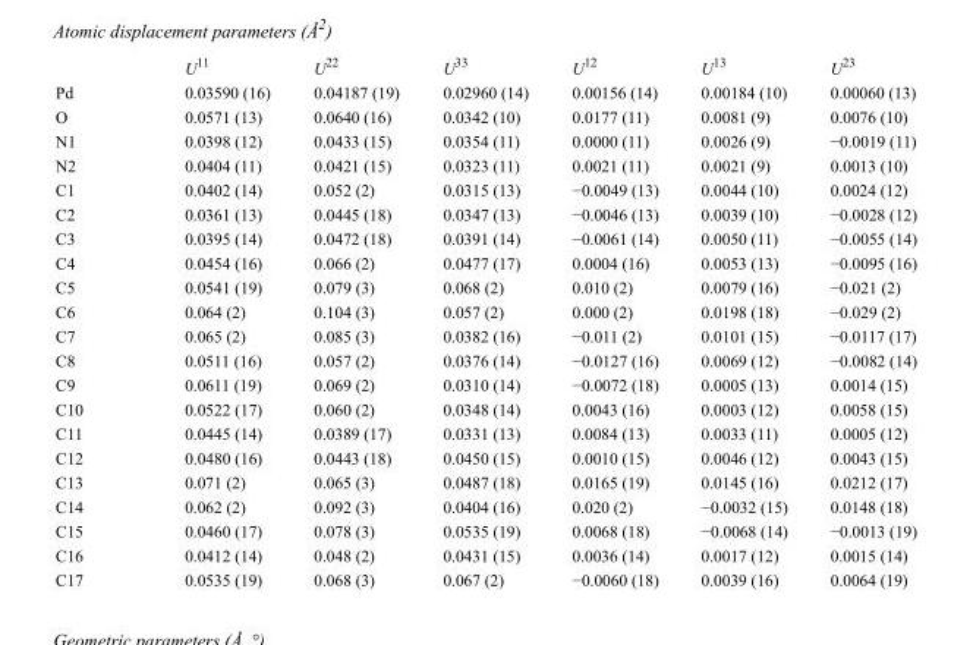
<table><thead><tr><td></td><td>U<sup>11</sup></td><td>U<sup>22</sup></td><td>U<sup>33</sup></td><td>U<sup>12</sup></td><td>U<sup>13</sup></td><td>U<sup>23</sup></td></tr></thead><tbody><tr><td>Pd</td><td>0.03590 (16)</td><td>0.04187 (19)</td><td>0.02960 (14)</td><td>0.00156 (14)</td><td>0.00184 (10)</td><td>0.00060 (13)</td></tr><tr><td>O</td><td>0.0571 (13)</td><td>0.0640 (16)</td><td>0.0342 (10)</td><td>0.0177 (11)</td><td>0.0081 (9)</td><td>0.0076 (10)</td></tr><tr><td>N1</td><td>0.0398 (12)</td><td>0.0433 (15)</td><td>0.0354 (11)</td><td>0.0000 (11)</td><td>0.0026 (9)</td><td>−0.0019 (11)</td></tr><tr><td>N2</td><td>0.0404 (11)</td><td>0.0421 (15)</td><td>0.0323 (11)</td><td>0.0021 (11)</td><td>0.0021 (9)</td><td>0.0013 (10)</td></tr><tr><td>C1</td><td>0.0402 (14)</td><td>0.052 (2)</td><td>0.0315 (13)</td><td>−0.0049 (13)</td><td>0.0044 (10)</td><td>0.0024 (12)</td></tr><tr><td>C2</td><td>0.0361 (13)</td><td>0.0445 (18)</td><td>0.0347 (13)</td><td>−0.0046 (13)</td><td>0.0039 (10)</td><td>−0.0028 (12)</td></tr><tr><td>C3</td><td>0.0395 (14)</td><td>0.0472 (18)</td><td>0.0391 (14)</td><td>−0.0061 (14)</td><td>0.0050 (11)</td><td>−0.0055 (14)</td></tr><tr><td>C4</td><td>0.0454 (16)</td><td>0.066 (2)</td><td>0.0477 (17)</td><td>0.0004 (16)</td><td>0.0053 (13)</td><td>−0.0095 (16)</td></tr><tr><td>C5</td><td>0.0541 (19)</td><td>0.079 (3)</td><td>0.068 (2)</td><td>0.010 (2)</td><td>0.0079 (16)</td><td>−0.021 (2)</td></tr><tr><td>C6</td><td>0.064 (2)</td><td>0.104 (3)</td><td>0.057 (2)</td><td>0.000 (2)</td><td>0.0198 (18)</td><td>−0.029 (2)</td></tr><tr><td>C7</td><td>0.065 (2)</td><td>0.085 (3)</td><td>0.0382 (16)</td><td>−0.011 (2)</td><td>0.0101 (15)</td><td>−0.0117 (17)</td></tr><tr><td>C8</td><td>0.0511 (16)</td><td>0.057 (2)</td><td>0.0376 (14)</td><td>−0.0127 (16)</td><td>0.0069 (12)</td><td>−0.0082 (14)</td></tr><tr><td>C9</td><td>0.0611 (19)</td><td>0.069 (2)</td><td>0.0310 (14)</td><td>−0.0072 (18)</td><td>0.0005 (13)</td><td>0.0014 (15)</td></tr><tr><td>C10</td><td>0.0522 (17)</td><td>0.060 (2)</td><td>0.0348 (14)</td><td>0.0043 (16)</td><td>0.0003 (12)</td><td>0.0058 (15)</td></tr><tr><td>C11</td><td>0.0445 (14)</td><td>0.0389 (17)</td><td>0.0331 (13)</td><td>0.0084 (13)</td><td>0.0033 (11)</td><td>0.0005 (12)</td></tr><tr><td>C12</td><td>0.0480 (16)</td><td>0.0443 (18)</td><td>0.0450 (15)</td><td>0.0010 (15)</td><td>0.0046 (12)</td><td>0.0043 (15)</td></tr><tr><td>C13</td><td>0.071 (2)</td><td>0.065 (3)</td><td>0.0487 (18)</td><td>0.0165 (19)</td><td>0.0145 (16)</td><td>0.0212 (17)</td></tr><tr><td>C14</td><td>0.062 (2)</td><td>0.092 (3)</td><td>0.0404 (16)</td><td>0.020 (2)</td><td>−0.0032 (15)</td><td>0.0148 (18)</td></tr><tr><td>C15</td><td>0.0460 (17)</td><td>0.078 (3)</td><td>0.0535 (19)</td><td>0.0068 (18)</td><td>−0.0068 (14)</td><td>−0.0013 (19)</td></tr><tr><td>C16</td><td>0.0412 (14)</td><td>0.048 (2)</td><td>0.0431 (15)</td><td>0.0036 (14)</td><td>0.0017 (12)</td><td>0.0015 (14)</td></tr><tr><td>C17</td><td>0.0535 (19)</td><td>0.068 (3)</td><td>0.067 (2)</td><td>−0.0060 (18)</td><td>0.0039 (16)</td><td>0.0064 (19)</td></tr></tbody></table>